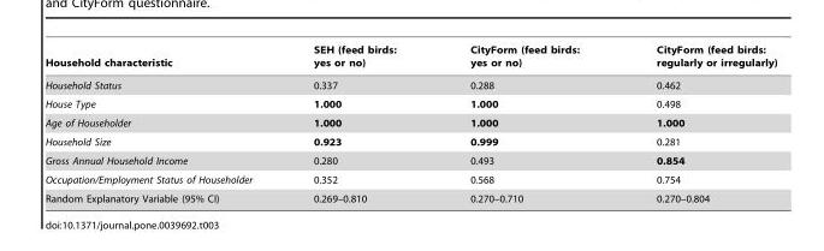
<table><thead><tr><td>Household characteristic</td><td>SEH (feed birds: yes or no)</td><td>CityForm (feed birds: yes or no)</td><td>CityForm (feed birds: regularly or irregularly)</td></tr></thead><tbody><tr><td>Household Status</td><td>0.337</td><td>0.288</td><td>0.462</td></tr><tr><td>House Type</td><td>1.000</td><td>1.000</td><td>0.498</td></tr><tr><td>Age of Householder</td><td>1.000</td><td>1.000</td><td>1.000</td></tr><tr><td>Household Size</td><td>0.923</td><td>0.999</td><td>0.281</td></tr><tr><td>Gross Annual Household Income</td><td>0.280</td><td>0.493</td><td>0.854</td></tr><tr><td>Occupation/Employment Status of Householder</td><td>0.352</td><td>0.568</td><td>0.754</td></tr><tr><td>Random Explanatory Variable (95% CI)</td><td>0.269–0.810</td><td>0.270–0.710</td><td>0.270–0.804</td></tr></tbody></table>